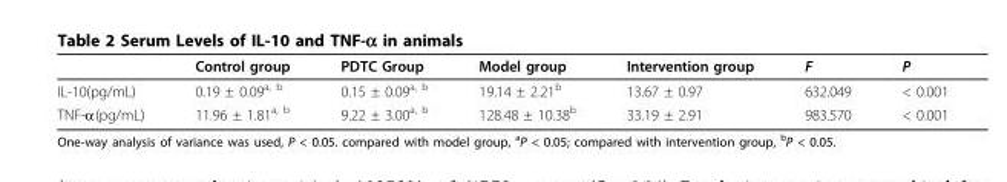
<table><thead><tr><td></td><td>Control group</td><td>PDTC Group</td><td>Model group</td><td>Intervention group</td><td>F</td><td>P</td></tr></thead><tbody><tr><td>IL-10(pg/mL)</td><td>0.19 ± 0.09<sup>a, b</sup></td><td>0.15 ± 0.09<sup>a, b</sup></td><td>19.14 ± 2.21<sup>b</sup></td><td>13.67 ± 0.97</td><td>632.049</td><td>&lt; 0.001</td></tr><tr><td>TNF-α(pg/mL)</td><td>11.96 ± 1.81<sup>a, b</sup></td><td>9.22 ± 3.00<sup>a, b</sup></td><td>128.48 ± 10.38<sup>b</sup></td><td>33.19 ± 2.91</td><td>983.570</td><td>&lt; 0.001</td></tr></tbody></table>